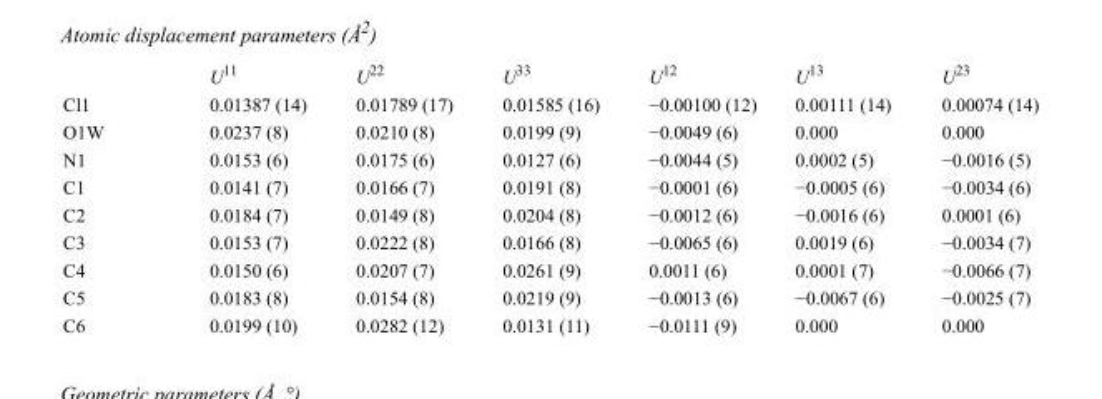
<table><thead><tr><td></td><td>U<sup>11</sup></td><td>U<sup>22</sup></td><td>U<sup>33</sup></td><td>U<sup>12</sup></td><td>U<sup>13</sup></td><td>U<sup>23</sup></td></tr></thead><tbody><tr><td>Cl1</td><td>0.01387 (14)</td><td>0.01789 (17)</td><td>0.01585 (16)</td><td>−0.00100 (12)</td><td>0.00111 (14)</td><td>0.00074 (14)</td></tr><tr><td>O1W</td><td>0.0237 (8)</td><td>0.0210 (8)</td><td>0.0199 (9)</td><td>−0.0049 (6)</td><td>0.000</td><td>0.000</td></tr><tr><td>N1</td><td>0.0153 (6)</td><td>0.0175 (6)</td><td>0.0127 (6)</td><td>−0.0044 (5)</td><td>0.0002 (5)</td><td>−0.0016 (5)</td></tr><tr><td>C1</td><td>0.0141 (7)</td><td>0.0166 (7)</td><td>0.0191 (8)</td><td>−0.0001 (6)</td><td>−0.0005 (6)</td><td>−0.0034 (6)</td></tr><tr><td>C2</td><td>0.0184 (7)</td><td>0.0149 (8)</td><td>0.0204 (8)</td><td>−0.0012 (6)</td><td>−0.0016 (6)</td><td>0.0001 (6)</td></tr><tr><td>C3</td><td>0.0153 (7)</td><td>0.0222 (8)</td><td>0.0166 (8)</td><td>−0.0065 (6)</td><td>0.0019 (6)</td><td>−0.0034 (7)</td></tr><tr><td>C4</td><td>0.0150 (6)</td><td>0.0207 (7)</td><td>0.0261 (9)</td><td>0.0011 (6)</td><td>0.0001 (7)</td><td>−0.0066 (7)</td></tr><tr><td>C5</td><td>0.0183 (8)</td><td>0.0154 (8)</td><td>0.0219 (9)</td><td>−0.0013 (6)</td><td>−0.0067 (6)</td><td>−0.0025 (7)</td></tr><tr><td>C6</td><td>0.0199 (10)</td><td>0.0282 (12)</td><td>0.0131 (11)</td><td>−0.0111 (9)</td><td>0.000</td><td>0.000</td></tr></tbody></table>